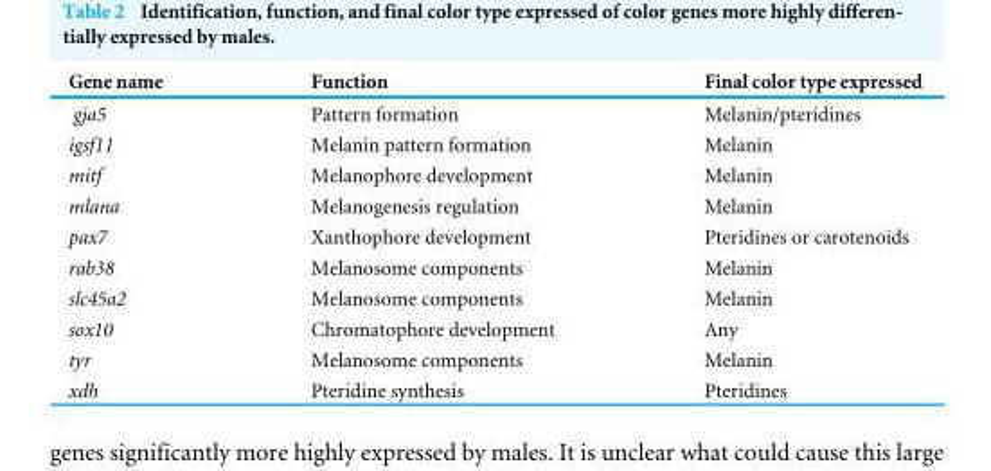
<table><thead><tr><td>Gene name</td><td>Function</td><td>Final color type expressed</td></tr></thead><tbody><tr><td>gja5</td><td>Pattern formation</td><td>Melanin/pteridines</td></tr><tr><td>igsf11</td><td>Melanin pattern formation</td><td>Melanin</td></tr><tr><td>mitf</td><td>Melanophore development</td><td>Melanin</td></tr><tr><td>mlana</td><td>Melanogenesis regulation</td><td>Melanin</td></tr><tr><td>pax7</td><td>Xanthophore development</td><td>Pteridines or carotenoids</td></tr><tr><td>rab38</td><td>Melanosome components</td><td>Melanin</td></tr><tr><td>slc45a2</td><td>Melanosome components</td><td>Melanin</td></tr><tr><td>sox10</td><td>Chromatophore development</td><td>Any</td></tr><tr><td>tyr</td><td>Melanosome components</td><td>Melanin</td></tr><tr><td>xdh</td><td>Pteridine synthesis</td><td>Pteridines</td></tr></tbody></table>